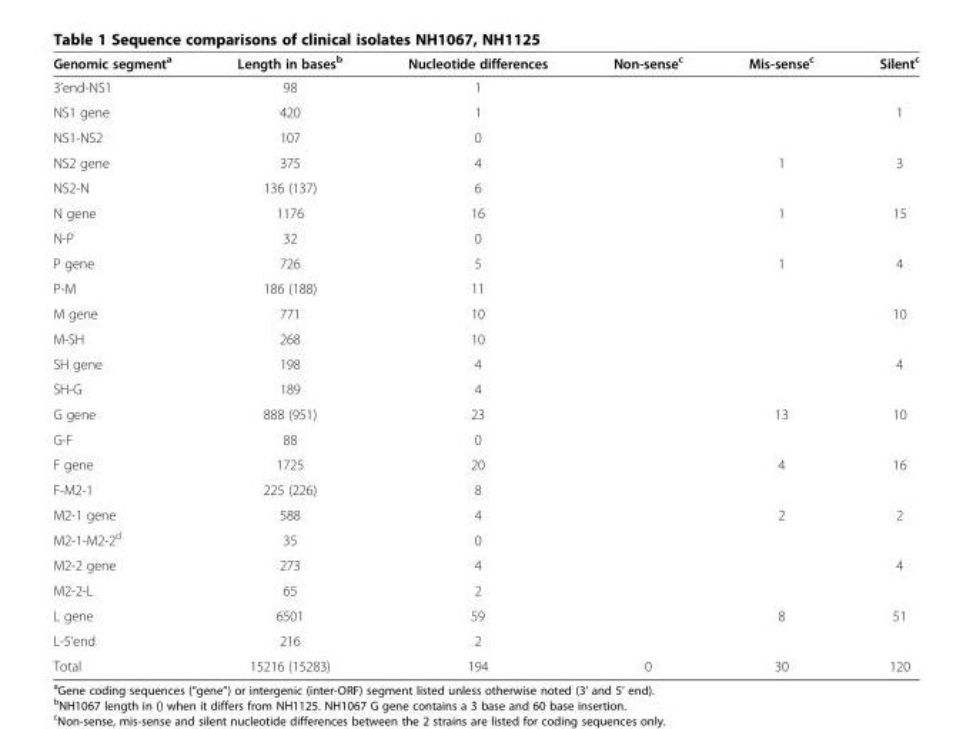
<table><thead><tr><td>Genomic segment<sup>a</sup></td><td>Length in bases<sup>b</sup></td><td>Nucleotide differences</td><td>Non-sense<sup>c</sup></td><td>Mis-sense<sup>c</sup></td><td>Silent<sup>c</sup></td></tr></thead><tbody><tr><td>3’end-NS1</td><td>98</td><td>1</td><td></td><td></td><td></td></tr><tr><td>NS1 gene</td><td>420</td><td>1</td><td></td><td></td><td>1</td></tr><tr><td>NS1-NS2</td><td>107</td><td>0</td><td></td><td></td><td></td></tr><tr><td>NS2 gene</td><td>375</td><td>4</td><td></td><td>1</td><td>3</td></tr><tr><td>NS2-N</td><td>136 (137)</td><td>6</td><td></td><td></td><td></td></tr><tr><td>N gene</td><td>1176</td><td>16</td><td></td><td>1</td><td>15</td></tr><tr><td>N-P</td><td>32</td><td>0</td><td></td><td></td><td></td></tr><tr><td>P gene</td><td>726</td><td>5</td><td></td><td>1</td><td>4</td></tr><tr><td>P-M</td><td>186 (188)</td><td>11</td><td></td><td></td><td></td></tr><tr><td>M gene</td><td>771</td><td>10</td><td></td><td></td><td>10</td></tr><tr><td>M-SH</td><td>268</td><td>10</td><td></td><td></td><td></td></tr><tr><td>SH gene</td><td>198</td><td>4</td><td></td><td></td><td>4</td></tr><tr><td>SH-G</td><td>189</td><td>4</td><td></td><td></td><td></td></tr><tr><td>G gene</td><td>888 (951)</td><td>23</td><td></td><td>13</td><td>10</td></tr><tr><td>G-F</td><td>88</td><td>0</td><td></td><td></td><td></td></tr><tr><td>F gene</td><td>1725</td><td>20</td><td></td><td>4</td><td>16</td></tr><tr><td>F-M2-1</td><td>225 (226)</td><td>8</td><td></td><td></td><td></td></tr><tr><td>M2-1 gene</td><td>588</td><td>4</td><td></td><td>2</td><td>2</td></tr><tr><td>M2-1-M2-2<sup>d</sup></td><td>35</td><td>0</td><td></td><td></td><td></td></tr><tr><td>M2-2 gene</td><td>273</td><td>4</td><td></td><td></td><td>4</td></tr><tr><td>M2-2-L</td><td>65</td><td>2</td><td></td><td></td><td></td></tr><tr><td>L gene</td><td>6501</td><td>59</td><td></td><td>8</td><td>51</td></tr><tr><td>L-5’end</td><td>216</td><td>2</td><td></td><td></td><td></td></tr><tr><td>Total</td><td>15216 (15283)</td><td>194</td><td>0</td><td>30</td><td>120</td></tr></tbody></table>